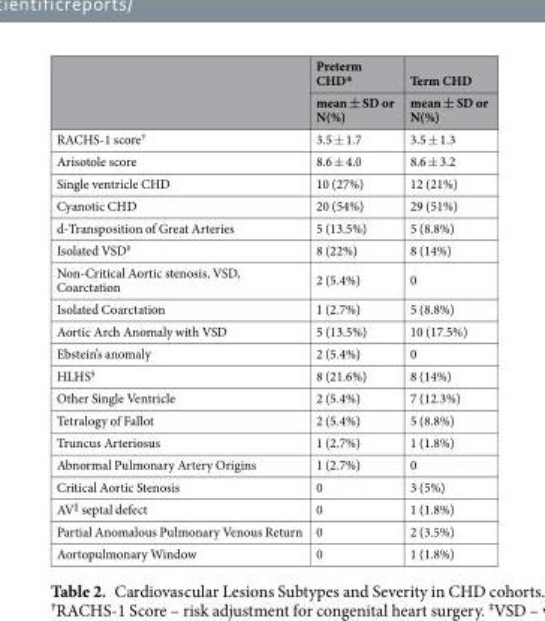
<table><thead><tr><td rowspan="2"></td><td rowspan="2">Preterm CHD* mean ± SD or N(%)</td><td rowspan="2">Term CHD mean ± SD or N(%)</td></tr><tr></tr></thead><tbody><tr><td>RACHS-1 score<sup>†</sup></td><td>3.5 ± 1.7</td><td>3.5 ± 1.3</td></tr><tr><td>Arisotole score</td><td>8.6 ± 4.0</td><td>8.6 ± 3.2</td></tr><tr><td>Single ventricle CHD</td><td>10 (27%)</td><td>12 (21%)</td></tr><tr><td>Cyanotic CHD</td><td>20 (54%)</td><td>29 (51%)</td></tr><tr><td>d-Transposition of Great Arteries</td><td>5 (13.5%)</td><td>5 (8.8%)</td></tr><tr><td>Isolated VSD<sup>‡</sup></td><td>8 (22%)</td><td>8 (14%)</td></tr><tr><td>Non-Critical Aortic stenosis, VSD, Coarctation</td><td>2 (5.4%)</td><td>0</td></tr><tr><td>Isolated Coarctation</td><td>1 (2.7%)</td><td>5 (8.8%)</td></tr><tr><td>Aortic Arch Anomaly with VSD</td><td>5 (13.5%)</td><td>10 (17.5%)</td></tr><tr><td>Ebstein’s anomaly</td><td>2 (5.4%)</td><td>0</td></tr><tr><td>HLHS<sup>§</sup></td><td>8 (21.6%)</td><td>8 (14%)</td></tr><tr><td>Other Single Ventricle</td><td>2 (5.4%)</td><td>7 (12.3%)</td></tr><tr><td>Tetralogy of Fallot</td><td>2 (5.4%)</td><td>5 (8.8%)</td></tr><tr><td>Truncus Arteriosus</td><td>1 (2.7%)</td><td>1 (1.8%)</td></tr><tr><td>Abnormal Pulmonary Artery Origins</td><td>1 (2.7%)</td><td>0</td></tr><tr><td>Critical Aortic Stenosis</td><td>0</td><td>3 (5%)</td></tr><tr><td>AV<sup>||</sup> septal defect</td><td>0</td><td>1 (1.8%)</td></tr><tr><td>Partial Anomalous Pulmonary Venous Return</td><td>0</td><td>2 (3.5%)</td></tr><tr><td>Aortopulmonary Window</td><td>0</td><td>1 (1.8%)</td></tr></tbody></table>